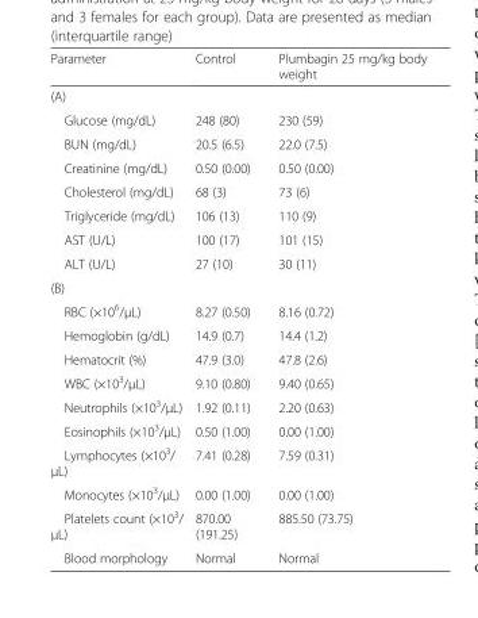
<table><thead><tr><td>Parameter</td><td>Control</td><td>Plumbagin 25 mg/kg body weight</td></tr></thead><tbody><tr><td colspan="3">(A)</td></tr><tr><td>Glucose (mg/dL)</td><td>248 (80)</td><td>230 (59)</td></tr><tr><td>BUN (mg/dL)</td><td>20.5 (6.5)</td><td>22.0 (7.5)</td></tr><tr><td>Creatinine (mg/dL)</td><td>0.50 (0.00)</td><td>0.50 (0.00)</td></tr><tr><td>Cholesterol (mg/dL)</td><td>68 (3)</td><td>73 (6)</td></tr><tr><td>Triglyceride (mg/dL)</td><td>106 (13)</td><td>110 (9)</td></tr><tr><td>AST (U/L)</td><td>100 (17)</td><td>101 (15)</td></tr><tr><td>ALT (U/L)</td><td>27 (10)</td><td>30 (11)</td></tr><tr><td colspan="3">(B)</td></tr><tr><td>RBC (×10<sup>6</sup>/μL)</td><td>8.27 (0.50)</td><td>8.16 (0.72)</td></tr><tr><td>Hemoglobin (g/dL)</td><td>14.9 (0.7)</td><td>14.4 (1.2)</td></tr><tr><td>Hematocrit (%)</td><td>47.9 (3.0)</td><td>47.8 (2.6)</td></tr><tr><td>WBC (×10<sup>3</sup>/μL)</td><td>9.10 (0.80)</td><td>9.40 (0.65)</td></tr><tr><td>Neutrophils (×10<sup>3</sup>/μL)</td><td>1.92 (0.11)</td><td>2.20 (0.63)</td></tr><tr><td>Eosinophils (×10<sup>3</sup>/μL)</td><td>0.50 (1.00)</td><td>0.00 (1.00)</td></tr><tr><td>Lymphocytes (×10<sup>3</sup>/ μL)</td><td>7.41 (0.28)</td><td>7.59 (0.31)</td></tr><tr><td>Monocytes (×10<sup>3</sup>/μL)</td><td>0.00 (1.00)</td><td>0.00 (1.00)</td></tr><tr><td>Platelets count (×10<sup>3</sup>/ μL)</td><td>870.00 (191.25)</td><td>885.50 (73.75)</td></tr><tr><td>Blood morphology</td><td>Normal</td><td>Normal</td></tr></tbody></table>